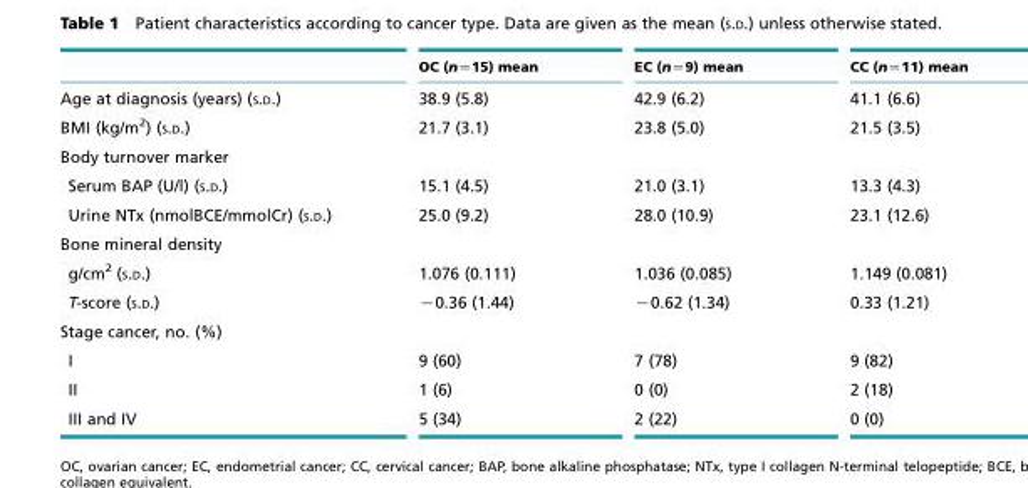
<table><thead><tr><td></td><td>OC (n=15) mean</td><td>EC (n=9) mean</td><td>CC (n=11) mean</td></tr></thead><tbody><tr><td>Age at diagnosis (years) (S.D.)</td><td>38.9 (5.8)</td><td>42.9 (6.2)</td><td>41.1 (6.6)</td></tr><tr><td>BMI (kg/m<sup>2</sup>) (S.D.)</td><td>21.7 (3.1)</td><td>23.8 (5.0)</td><td>21.5 (3.5)</td></tr><tr><td colspan="4">Body turnover marker</td></tr><tr><td>Serum BAP (U/l) (S.D.)</td><td>15.1 (4.5)</td><td>21.0 (3.1)</td><td>13.3 (4.3)</td></tr><tr><td>Urine NTx (nmolBCE/mmolCr) (S.D.)</td><td>25.0 (9.2)</td><td>28.0 (10.9)</td><td>23.1 (12.6)</td></tr><tr><td colspan="4">Bone mineral density</td></tr><tr><td>g/cm<sup>2</sup> (S.D.)</td><td>1.076 (0.111)</td><td>1.036 (0.085)</td><td>1.149 (0.081)</td></tr><tr><td>T-score (S.D.)</td><td>−0.36 (1.44)</td><td>−0.62 (1.34)</td><td>0.33 (1.21)</td></tr><tr><td colspan="4">Stage cancer, no. (%)</td></tr><tr><td>I</td><td>9 (60)</td><td>7 (78)</td><td>9 (82)</td></tr><tr><td>II</td><td>1 (6)</td><td>0 (0)</td><td>2 (18)</td></tr><tr><td>III and IV</td><td>5 (34)</td><td>2 (22)</td><td>0 (0)</td></tr></tbody></table>